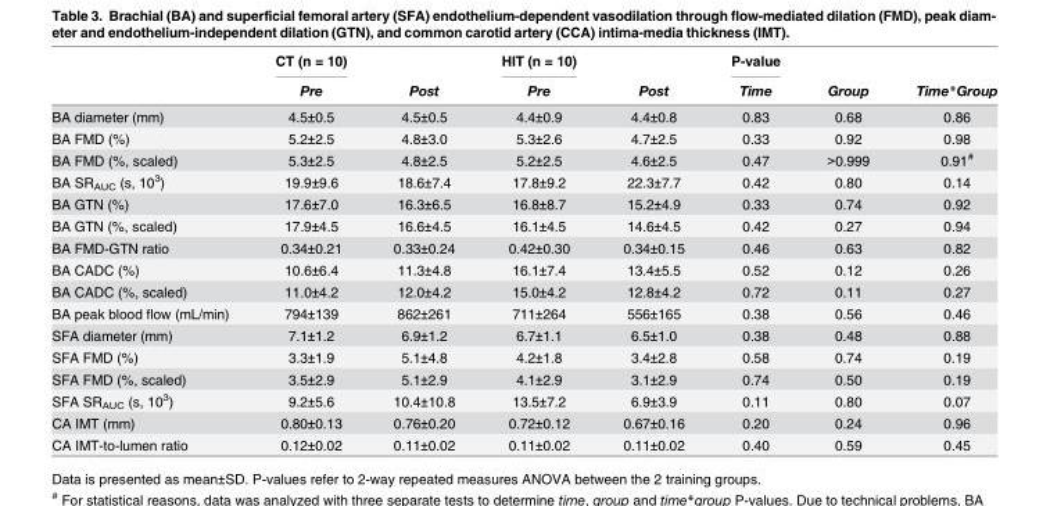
<table><thead><tr><td rowspan="2"></td><td rowspan="2">CT (n = 10) Pre</td><td rowspan="2">Post</td><td rowspan="2">HIT (n = 10) Pre</td><td rowspan="2">Post</td><td rowspan="2">P-value Time</td><td rowspan="2">Group</td><td rowspan="2">Time*Group</td></tr><tr></tr></thead><tbody><tr><td>BA diameter (mm)</td><td>4.5±0.5</td><td>4.5±0.5</td><td>4.4±0.9</td><td>4.4±0.8</td><td>0.83</td><td>0.68</td><td>0.86</td></tr><tr><td>BA FMD (%)</td><td>5.2±2.5</td><td>4.8±3.0</td><td>5.3±2.6</td><td>4.7±2.5</td><td>0.33</td><td>0.92</td><td>0.98</td></tr><tr><td>BA FMD (%, scaled)</td><td>5.3±2.5</td><td>4.8±2.5</td><td>5.2±2.5</td><td>4.6±2.5</td><td>0.47</td><td>&gt;0.999</td><td>0.91<sup>#</sup></td></tr><tr><td>BA SR<sub>AUC</sub> (s, 10<sup>3</sup>)</td><td>19.9±9.6</td><td>18.6±7.4</td><td>17.8±9.2</td><td>22.3±7.7</td><td>0.42</td><td>0.80</td><td>0.14</td></tr><tr><td>BA GTN (%)</td><td>17.6±7.0</td><td>16.3±6.5</td><td>16.8±8.7</td><td>15.2±4.9</td><td>0.33</td><td>0.74</td><td>0.92</td></tr><tr><td>BA GTN (%, scaled)</td><td>17.9±4.5</td><td>16.6±4.5</td><td>16.1±4.5</td><td>14.6±4.5</td><td>0.42</td><td>0.27</td><td>0.94</td></tr><tr><td>BA FMD-GTN ratio</td><td>0.34±0.21</td><td>0.33±0.24</td><td>0.42±0.30</td><td>0.34±0.15</td><td>0.46</td><td>0.63</td><td>0.82</td></tr><tr><td>BA CADC (%)</td><td>10.6±6.4</td><td>11.3±4.8</td><td>16.1±7.4</td><td>13.4±5.5</td><td>0.52</td><td>0.12</td><td>0.26</td></tr><tr><td>BA CADC (%, scaled)</td><td>11.0±4.2</td><td>12.0±4.2</td><td>15.0±4.2</td><td>12.8±4.2</td><td>0.72</td><td>0.11</td><td>0.27</td></tr><tr><td>BA peak blood flow (mL/min)</td><td>794±139</td><td>862±261</td><td>711±264</td><td>556±165</td><td>0.38</td><td>0.56</td><td>0.46</td></tr><tr><td>SFA diameter (mm)</td><td>7.1±1.2</td><td>6.9±1.2</td><td>6.7±1.1</td><td>6.5±1.0</td><td>0.38</td><td>0.48</td><td>0.88</td></tr><tr><td>SFA FMD (%)</td><td>3.3±1.9</td><td>5.1±4.8</td><td>4.2±1.8</td><td>3.4±2.8</td><td>0.58</td><td>0.74</td><td>0.19</td></tr><tr><td>SFA FMD (%, scaled)</td><td>3.5±2.9</td><td>5.1±2.9</td><td>4.1±2.9</td><td>3.1±2.9</td><td>0.74</td><td>0.50</td><td>0.19</td></tr><tr><td>SFA SR<sub>AUC</sub> (s, 10<sup>3</sup>)</td><td>9.2±5.6</td><td>10.4±10.8</td><td>13.5±7.2</td><td>6.9±3.9</td><td>0.11</td><td>0.80</td><td>0.07</td></tr><tr><td>CA IMT (mm)</td><td>0.80±0.13</td><td>0.76±0.20</td><td>0.72±0.12</td><td>0.67±0.16</td><td>0.20</td><td>0.24</td><td>0.96</td></tr><tr><td>CA IMT-to-lumen ratio</td><td>0.12±0.02</td><td>0.11±0.02</td><td>0.11±0.02</td><td>0.11±0.02</td><td>0.40</td><td>0.59</td><td>0.45</td></tr></tbody></table>